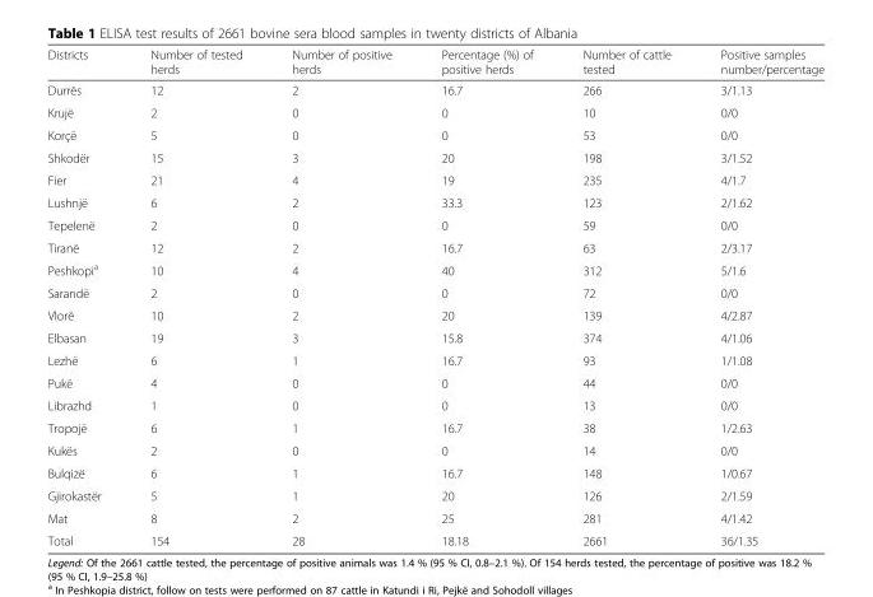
<table><thead><tr><td>Districts</td><td>Number of tested herds</td><td>Number of positive herds</td><td>Percentage (%) of positive herds</td><td>Number of cattle tested</td><td>Positive samples number/percentage</td></tr></thead><tbody><tr><td>Durrës</td><td>12</td><td>2</td><td>16.7</td><td>266</td><td>3/1.13</td></tr><tr><td>Krujë</td><td>2</td><td>0</td><td>0</td><td>10</td><td>0/0</td></tr><tr><td>Korçë</td><td>5</td><td>0</td><td>0</td><td>53</td><td>0/0</td></tr><tr><td>Shkodër</td><td>15</td><td>3</td><td>20</td><td>198</td><td>3/1.52</td></tr><tr><td>Fier</td><td>21</td><td>4</td><td>19</td><td>235</td><td>4/1.7</td></tr><tr><td>Lushnjë</td><td>6</td><td>2</td><td>33.3</td><td>123</td><td>2/1.62</td></tr><tr><td>Tepelenë</td><td>2</td><td>0</td><td>0</td><td>59</td><td>0/0</td></tr><tr><td>Tiranë</td><td>12</td><td>2</td><td>16.7</td><td>63</td><td>2/3.17</td></tr><tr><td>Peshkopi<sup>a</sup></td><td>10</td><td>4</td><td>40</td><td>312</td><td>5/1.6</td></tr><tr><td>Sarandë</td><td>2</td><td>0</td><td>0</td><td>72</td><td>0/0</td></tr><tr><td>Vlorë</td><td>10</td><td>2</td><td>20</td><td>139</td><td>4/2.87</td></tr><tr><td>Elbasan</td><td>19</td><td>3</td><td>15.8</td><td>374</td><td>4/1.06</td></tr><tr><td>Lezhë</td><td>6</td><td>1</td><td>16.7</td><td>93</td><td>1/1.08</td></tr><tr><td>Pukë</td><td>4</td><td>0</td><td>0</td><td>44</td><td>0/0</td></tr><tr><td>Librazhd</td><td>1</td><td>0</td><td>0</td><td>13</td><td>0/0</td></tr><tr><td>Tropojë</td><td>6</td><td>1</td><td>16.7</td><td>38</td><td>1/2.63</td></tr><tr><td>Kukës</td><td>2</td><td>0</td><td>0</td><td>14</td><td>0/0</td></tr><tr><td>Bulqizë</td><td>6</td><td>1</td><td>16.7</td><td>148</td><td>1/0.67</td></tr><tr><td>Gjirokastër</td><td>5</td><td>1</td><td>20</td><td>126</td><td>2/1.59</td></tr><tr><td>Mat</td><td>8</td><td>2</td><td>25</td><td>281</td><td>4/1.42</td></tr><tr><td>Total</td><td>154</td><td>28</td><td>18.18</td><td>2661</td><td>36/1.35</td></tr></tbody></table>